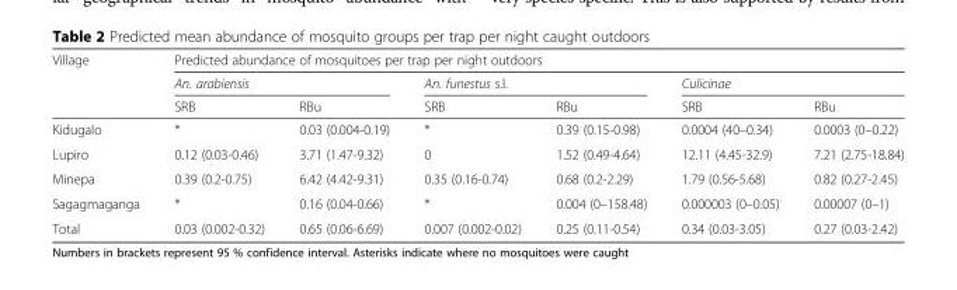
<table><thead><tr><td rowspan="3">Village</td><td colspan="6">Predicted abundance of mosquitoes per trap per night outdoors</td></tr><tr><td colspan="2">An. arabiensis</td><td colspan="2">An. funestus s.l.</td><td colspan="2">Culicinae</td></tr><tr><td>SRB</td><td>RBu</td><td>SRB</td><td>RBu</td><td>SRB</td><td>RBu</td></tr></thead><tbody><tr><td>Kidugalo</td><td>*</td><td>0.03 (0.004-0.19)</td><td>*</td><td>0.39 (0.15-0.98)</td><td>0.0004 (40–0.34)</td><td>0.0003 (0–0.22)</td></tr><tr><td>Lupiro</td><td>0.12 (0.03-0.46)</td><td>3.71 (1.47-9.32)</td><td>0</td><td>1.52 (0.49-4.64)</td><td>12.11 (4.45-32.9)</td><td>7.21 (2.75-18.84)</td></tr><tr><td>Minepa</td><td>0.39 (0.2-0.75)</td><td>6.42 (4.42-9.31)</td><td>0.35 (0.16-0.74)</td><td>0.68 (0.2-2.29)</td><td>1.79 (0.56-5.68)</td><td>0.82 (0.27-2.45)</td></tr><tr><td>Sagagmaganga</td><td>*</td><td>0.16 (0.04-0.66)</td><td>*</td><td>0.004 (0–158.48)</td><td>0.000003 (0–0.05)</td><td>0.00007 (0–1)</td></tr><tr><td>Total</td><td>0.03 (0.002-0.32)</td><td>0.65 (0.06-6.69)</td><td>0.007 (0.002-0.02)</td><td>0.25 (0.11-0.54)</td><td>0.34 (0.03-3.05)</td><td>0.27 (0.03-2.42)</td></tr></tbody></table>